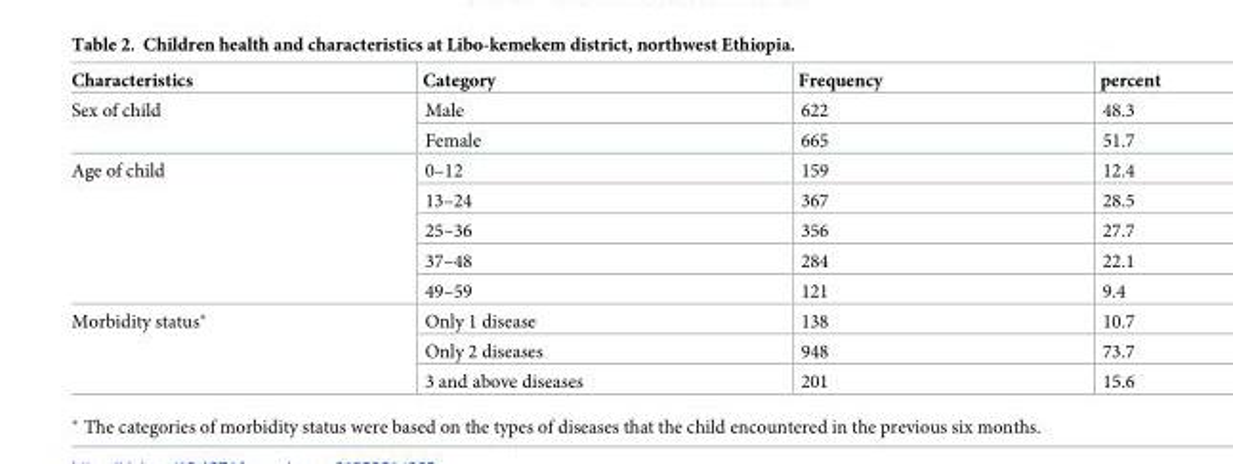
<table><thead><tr><td>Characteristics</td><td>Category</td><td>Frequency</td><td>percent</td></tr></thead><tbody><tr><td rowspan="2">Sex of child</td><td>Male</td><td>622</td><td>48.3</td></tr><tr><td>Female</td><td>665</td><td>51.7</td></tr><tr><td rowspan="5">Age of child</td><td>0–12</td><td>159</td><td>12.4</td></tr><tr><td>13–24</td><td>367</td><td>28.5</td></tr><tr><td>25–36</td><td>356</td><td>27.7</td></tr><tr><td>37–48</td><td>284</td><td>22.1</td></tr><tr><td>49–59</td><td>121</td><td>9.4</td></tr><tr><td rowspan="3">Morbidity status*</td><td>Only 1 disease</td><td>138</td><td>10.7</td></tr><tr><td>Only 2 diseases</td><td>948</td><td>73.7</td></tr><tr><td>3 and above diseases</td><td>201</td><td>15.6</td></tr></tbody></table>